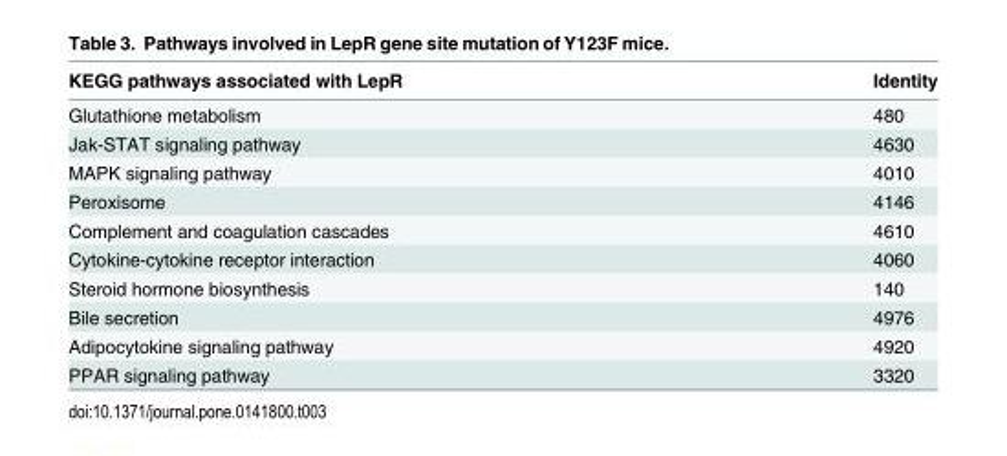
<table><thead><tr><td>KEGG pathways associated with LepR</td><td>Identity</td></tr></thead><tbody><tr><td>Glutathione metabolism</td><td>480</td></tr><tr><td>Jak-STAT signaling pathway</td><td>4630</td></tr><tr><td>MAPK signaling pathway</td><td>4010</td></tr><tr><td>Peroxisome</td><td>4146</td></tr><tr><td>Complement and coagulation cascades</td><td>4610</td></tr><tr><td>Cytokine-cytokine receptor interaction</td><td>4060</td></tr><tr><td>Steroid hormone biosynthesis</td><td>140</td></tr><tr><td>Bile secretion</td><td>4976</td></tr><tr><td>Adipocytokine signaling pathway</td><td>4920</td></tr><tr><td>PPAR signaling pathway</td><td>3320</td></tr></tbody></table>